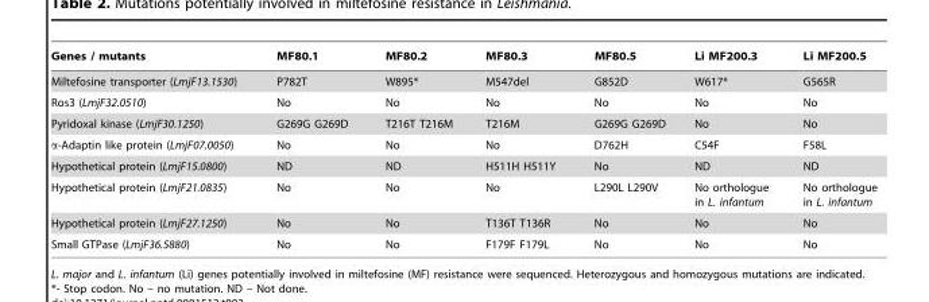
<table><thead><tr><td>Genes / mutants</td><td>MF80.1</td><td>MF80.2</td><td>MF80.3</td><td>MF80.5</td><td>Li MF200.3</td><td>Li MF200.5</td></tr></thead><tbody><tr><td>Miltefosine transporter (LmjF13.1530)</td><td>P782T</td><td>W895*</td><td>M547del</td><td>G852D</td><td>W617*</td><td>G565R</td></tr><tr><td>Ros3 (LmjF32.0510)</td><td>No</td><td>No</td><td>No</td><td>No</td><td>No</td><td>No</td></tr><tr><td>Pyridoxal kinase (LmjF30.1250)</td><td>G269G G269D</td><td>T216T T216M</td><td>T216M</td><td>G269G G269D</td><td>No</td><td>No</td></tr><tr><td>α-Adaptin like protein (LmjF07.0050)</td><td>No</td><td>No</td><td>No</td><td>D762H</td><td>C54F</td><td>F58L</td></tr><tr><td>Hypothetical protein (LmjF15.0800)</td><td>ND</td><td>ND</td><td>H511H H511Y</td><td>No</td><td>ND</td><td>ND</td></tr><tr><td>Hypothetical protein (LmjF21.0835)</td><td>No</td><td>No</td><td>No</td><td>L290L L290V</td><td>No orthologue in L. infantum</td><td>No orthologue in L. infantum</td></tr><tr><td>Hypothetical protein (LmjF27.1250)</td><td>No</td><td>No</td><td>T136T T136R</td><td>No</td><td>No</td><td>No</td></tr><tr><td>Small GTPase (LmjF36.5880)</td><td>No</td><td>No</td><td>F179F F179L</td><td>No</td><td>No</td><td>No</td></tr></tbody></table>